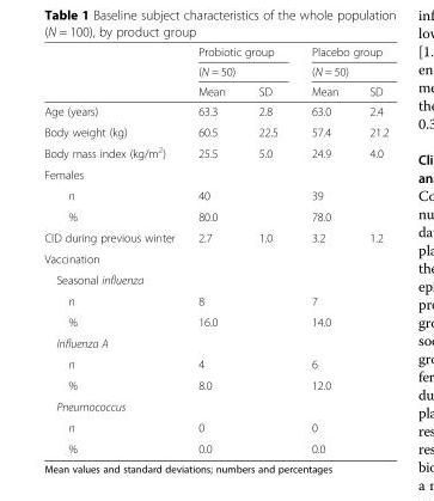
<table><thead><tr><td rowspan="3"></td><td rowspan="2" colspan="2">Probiotic group (N = 50)</td><td rowspan="2" colspan="2">Placebo group (N = 50)</td></tr><tr></tr><tr><td>Mean</td><td>SD</td><td>Mean</td><td>SD</td></tr></thead><tbody><tr><td>Age (years)</td><td>63.3</td><td>2.8</td><td>63.0</td><td>2.4</td></tr><tr><td>Body weight (kg)</td><td>60.5</td><td>22.5</td><td>57.4</td><td>21.2</td></tr><tr><td>Body mass index (kg/m<sup>2</sup>)</td><td>25.5</td><td>5.0</td><td>24.9</td><td>4.0</td></tr><tr><td colspan="5">Females</td></tr><tr><td>n</td><td>40</td><td></td><td>39</td><td></td></tr><tr><td>%</td><td>80.0</td><td></td><td>78.0</td><td></td></tr><tr><td>CID during previous winter</td><td>2.7</td><td>1.0</td><td>3.2</td><td>1.2</td></tr><tr><td colspan="5">Vaccination</td></tr><tr><td colspan="5">Seasonal influenza</td></tr><tr><td>n</td><td colspan="2">8</td><td colspan="2">7</td></tr><tr><td>%</td><td colspan="2">16.0</td><td colspan="2">14.0</td></tr><tr><td colspan="5">Influenza A</td></tr><tr><td>n</td><td colspan="2">4</td><td colspan="2">6</td></tr><tr><td>%</td><td colspan="2">8.0</td><td colspan="2">12.0</td></tr><tr><td colspan="5">Pneumococcus</td></tr><tr><td>n</td><td colspan="2">0</td><td colspan="2">0</td></tr><tr><td>%</td><td colspan="2">0.0</td><td colspan="2">0.0</td></tr></tbody></table>